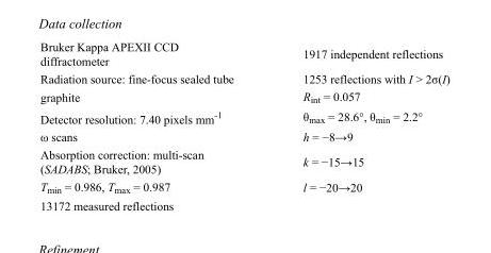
<table><tbody><tr><td>Bruker Kappa APEXII CCD diffractometer</td><td>1917 independent reflections</td></tr><tr><td>Radiation source: fine-focus sealed tube</td><td>1253 reflections with I &gt; 2σ(I)</td></tr><tr><td>graphite</td><td>R<sub>int</sub> = 0.057</td></tr><tr><td>Detector resolution: 7.40 pixels mm<sup>-1</sup></td><td>θ<sub>max</sub> = 28.6°, θ<sub>min</sub> = 2.2°</td></tr><tr><td>ω scans</td><td>h = −8→9</td></tr><tr><td>Absorption correction: multi-scan (SADABS; Bruker, 2005)</td><td>k = −15→15</td></tr><tr><td>T<sub>min</sub> = 0.986, T<sub>max</sub> = 0.987</td><td>l = −20→20</td></tr><tr><td>13172 measured reflections</td><td></td></tr></tbody></table>